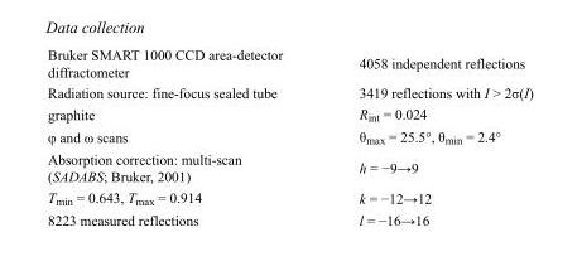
<table><tbody><tr><td>Bruker SMART 1000 CCD area-detector diffractometer</td><td>4058 independent reflections</td></tr><tr><td>Radiation source: fine-focus sealed tube</td><td>3419 reflections with I &gt; 2σ(I)</td></tr><tr><td>graphite</td><td>R<sub>int</sub> = 0.024</td></tr><tr><td>φ and ω scans</td><td>θ<sub>max</sub> = 25.5°, θ<sub>min</sub> = 2.4°</td></tr><tr><td>Absorption correction: multi-scan (SADABS; Bruker, 2001)</td><td>h = −9→9</td></tr><tr><td>T<sub>min</sub> = 0.643, T<sub>max</sub> = 0.914</td><td>k = −12→12</td></tr><tr><td>8223 measured reflections</td><td>l = −16→16</td></tr></tbody></table>